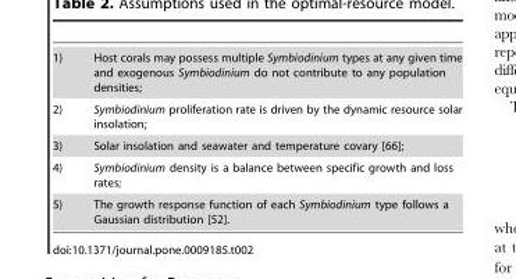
<table><tbody><tr><td>1)</td><td>Host corals may possess multiple Symbiodinium types at any given time and exogenous Symbiodinium do not contribute to any population densities;</td></tr><tr><td>2)</td><td>Symbiodinium proliferation rate is driven by the dynamic resource solar insolation;</td></tr><tr><td>3)</td><td>Solar insolation and seawater and temperature covary [66];</td></tr><tr><td>4)</td><td>Symbiodinium density is a balance between specific growth and loss rates;</td></tr><tr><td>5)</td><td>The growth response function of each Symbiodinium type follows a Gaussian distribution [52].</td></tr></tbody></table>